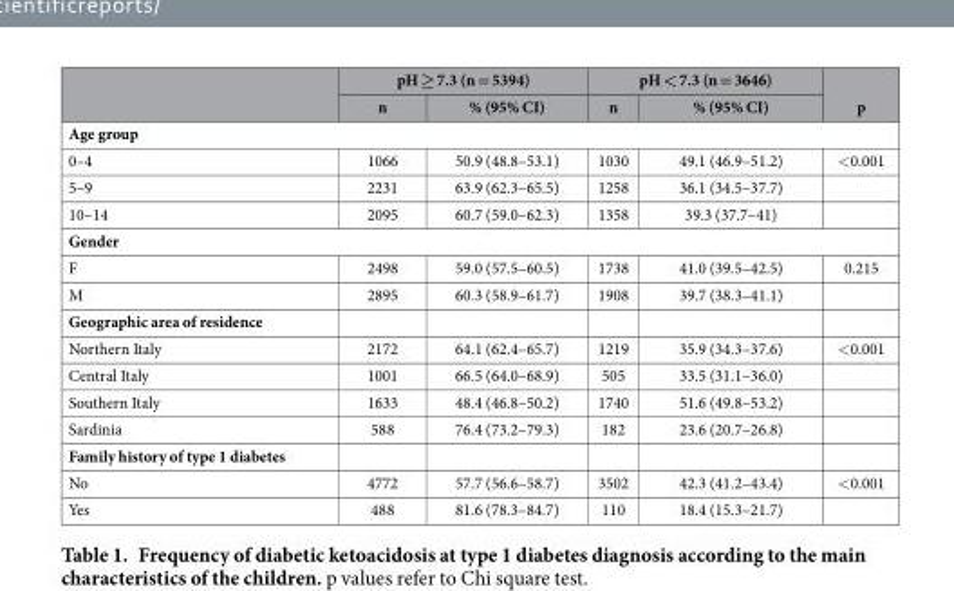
<table><thead><tr><td rowspan="2"></td><td colspan="2">pH ≥ 7.3 (n = 5394)</td><td colspan="2">pH &lt; 7.3 (n = 3646)</td><td rowspan="2">p</td></tr><tr><td>n</td><td>% (95% CI)</td><td>n</td><td>% (95% CI)</td></tr></thead><tbody><tr><td colspan="6">Age group</td></tr><tr><td>0–4</td><td>1066</td><td>50.9 (48.8–53.1)</td><td>1030</td><td>49.1 (46.9–51.2)</td><td>&lt; 0.001</td></tr><tr><td>5–9</td><td>2231</td><td>63.9 (62.3–65.5)</td><td>1258</td><td>36.1 (34.5–37.7)</td><td></td></tr><tr><td>10–14</td><td>2095</td><td>60.7 (59.0–62.3)</td><td>1358</td><td>39.3 (37.7–41)</td><td></td></tr><tr><td colspan="6">Gender</td></tr><tr><td>F</td><td>2498</td><td>59.0 (57.5–60.5)</td><td>1738</td><td>41.0 (39.5–42.5)</td><td>0.215</td></tr><tr><td>M</td><td>2895</td><td>60.3 (58.9–61.7)</td><td>1908</td><td>39.7 (38.3–41.1)</td><td></td></tr><tr><td colspan="6">Geographic area of residence</td></tr><tr><td>Northern Italy</td><td>2172</td><td>64.1 (62.4–65.7)</td><td>1219</td><td>35.9 (34.3–37.6)</td><td>&lt; 0.001</td></tr><tr><td>Central Italy</td><td>1001</td><td>66.5 (64.0–68.9)</td><td>505</td><td>33.5 (31.1–36.0)</td><td></td></tr><tr><td>Southern Italy</td><td>1633</td><td>48.4 (46.8–50.2)</td><td>1740</td><td>51.6 (49.8–53.2)</td><td></td></tr><tr><td>Sardinia</td><td>588</td><td>76.4 (73.2–79.3)</td><td>182</td><td>23.6 (20.7–26.8)</td><td></td></tr><tr><td colspan="6">Family history of type 1 diabetes</td></tr><tr><td>No</td><td>4772</td><td>57.7 (56.6–58.7)</td><td>3502</td><td>42.3 (41.2–43.4)</td><td>&lt; 0.001</td></tr><tr><td>Yes</td><td>488</td><td>81.6 (78.3–84.7)</td><td>110</td><td>18.4 (15.3–21.7)</td><td></td></tr></tbody></table>